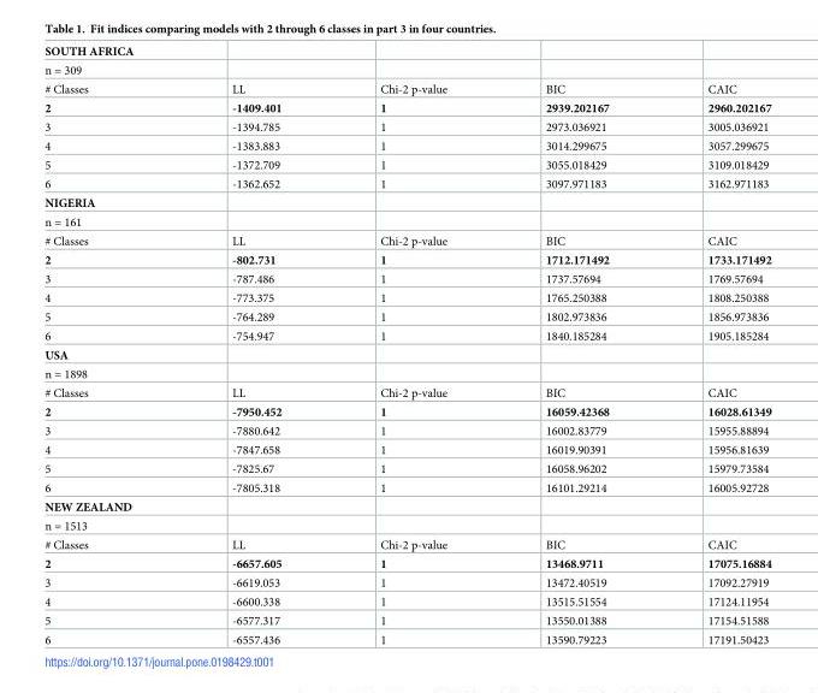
<table><tbody><tr><td colspan="5">SOUTH AFRICA</td></tr><tr><td colspan="5">n = 309</td></tr><tr><td># Classes</td><td>LL</td><td>Chi-2 p-value</td><td>BIC</td><td>CAIC</td></tr><tr><td>2</td><td>-1409.401</td><td>1</td><td>2939.202167</td><td>2960.202167</td></tr><tr><td>3</td><td>-1394.785</td><td>1</td><td>2973.036921</td><td>3005.036921</td></tr><tr><td>4</td><td>-1383.883</td><td>1</td><td>3014.299675</td><td>3057.299675</td></tr><tr><td>5</td><td>-1372.709</td><td>1</td><td>3055.018429</td><td>3109.018429</td></tr><tr><td>6</td><td>-1362.652</td><td>1</td><td>3097.971183</td><td>3162.971183</td></tr><tr><td colspan="5">NIGERIA</td></tr><tr><td colspan="5">n = 161</td></tr><tr><td># Classes</td><td>LL</td><td>Chi-2 p-value</td><td>BIC</td><td>CAIC</td></tr><tr><td>2</td><td>-802.731</td><td>1</td><td>1712.171492</td><td>1733.171492</td></tr><tr><td>3</td><td>-787.486</td><td>1</td><td>1737.57694</td><td>1769.57694</td></tr><tr><td>4</td><td>-773.375</td><td>1</td><td>1765.250388</td><td>1808.250388</td></tr><tr><td>5</td><td>-764.289</td><td>1</td><td>1802.973836</td><td>1856.973836</td></tr><tr><td>6</td><td>-754.947</td><td>1</td><td>1840.185284</td><td>1905.185284</td></tr><tr><td colspan="5">USA</td></tr><tr><td colspan="5">n = 1898</td></tr><tr><td># Classes</td><td>LL</td><td>Chi-2 p-value</td><td>BIC</td><td>CAIC</td></tr><tr><td>2</td><td>-7950.452</td><td>1</td><td>16059.42368</td><td>16028.61349</td></tr><tr><td>3</td><td>-7880.642</td><td>1</td><td>16002.83779</td><td>15955.88894</td></tr><tr><td>4</td><td>-7847.658</td><td>1</td><td>16019.90391</td><td>15956.81639</td></tr><tr><td>5</td><td>-7825.67</td><td>1</td><td>16058.96202</td><td>15979.73584</td></tr><tr><td>6</td><td>-7805.318</td><td>1</td><td>16101.29214</td><td>16005.92728</td></tr><tr><td colspan="5">NEW ZEALAND</td></tr><tr><td colspan="5">n = 1513</td></tr><tr><td># Classes</td><td>LL</td><td>Chi-2 p-value</td><td>BIC</td><td>CAIC</td></tr><tr><td>2</td><td>-6657.605</td><td>1</td><td>13468.9711</td><td>17075.16884</td></tr><tr><td>3</td><td>-6619.053</td><td>1</td><td>13472.40519</td><td>17092.27919</td></tr><tr><td>4</td><td>-6600.338</td><td>1</td><td>13515.51554</td><td>17124.11954</td></tr><tr><td>5</td><td>-6577.317</td><td>1</td><td>13550.01388</td><td>17154.51588</td></tr><tr><td>6</td><td>-6557.436</td><td>1</td><td>13590.79223</td><td>17191.50423</td></tr></tbody></table>